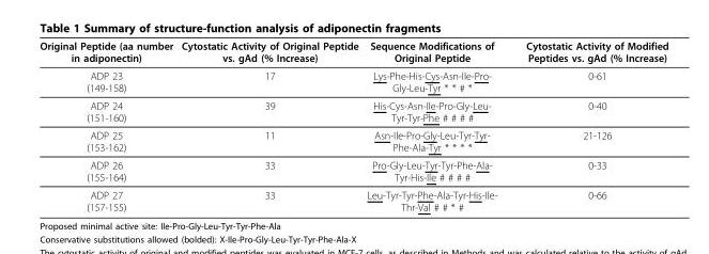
<table><thead><tr><td>Original Peptide (aa number in adiponectin)</td><td>Cytostatic Activity of Original Peptide vs. gAd (% Increase)</td><td>Sequence Modifications of Original Peptide</td><td>Cytostatic Activity of Modified Peptides vs. gAd (% Increase)</td></tr></thead><tbody><tr><td>ADP 23 (149-158)</td><td>17</td><td>Lys-Phe-His-Cys-Asn-Ile-Pro- Gly-Leu-Tyr * * # *</td><td>0-61</td></tr><tr><td>ADP 24 (151-160)</td><td>39</td><td>His-Cys-Asn-Ile-Pro-Gly-Leu- Tyr-Tyr-Phe # # # #</td><td>0-40</td></tr><tr><td>ADP 25 (153-162)</td><td>11</td><td>Asn-Ile-Pro-Gly-Leu-Tyr-Tyr- Phe-Ala-Tyr * * * *</td><td>21-126</td></tr><tr><td>ADP 26 (155-164)</td><td>33</td><td>Pro-Gly-Leu-Tyr-Tyr-Phe-Ala- Tyr-His-Ile # # # #</td><td>0-33</td></tr><tr><td>ADP 27 (157-155)</td><td>33</td><td>Leu-Tyr-Tyr-Phe-Ala-Tyr-His-Ile- Thr-Val # # * #</td><td>0-66</td></tr></tbody></table>